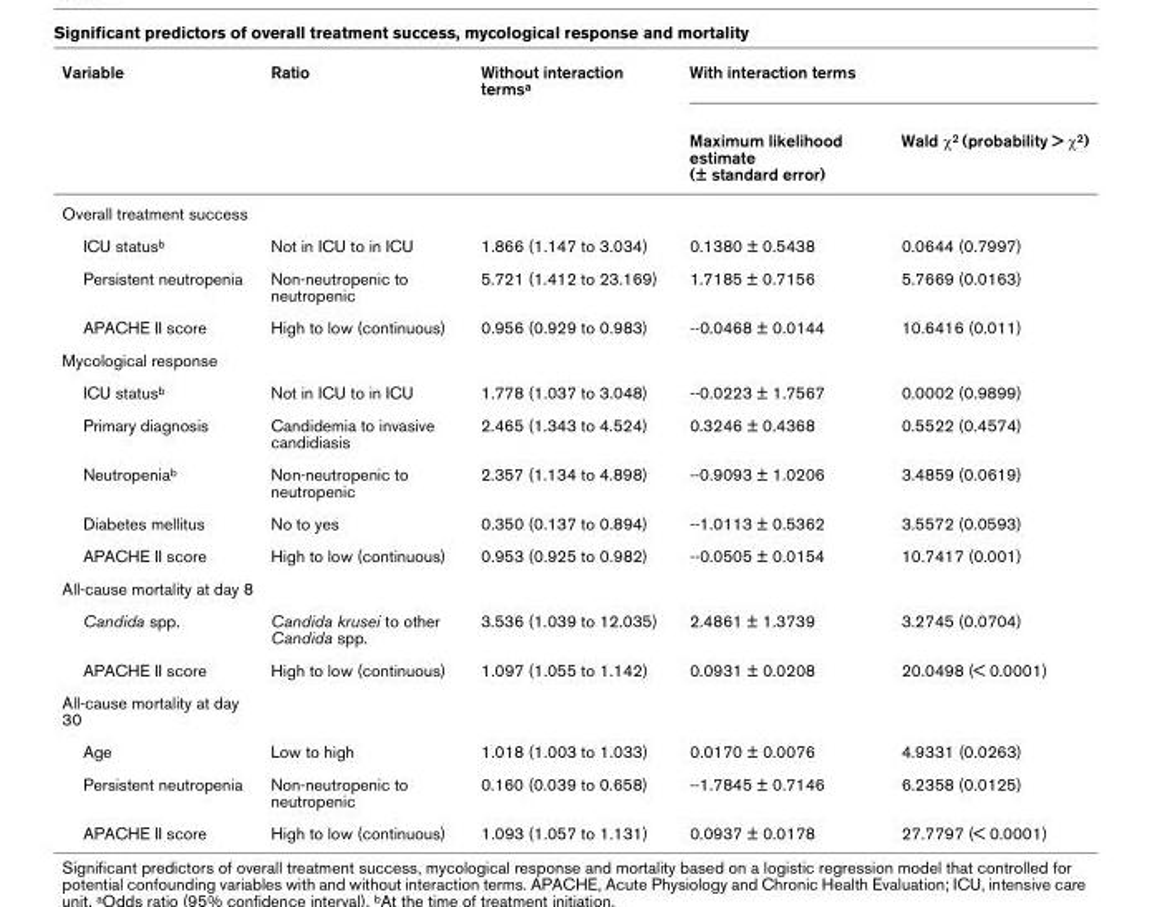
<table><thead><tr><td rowspan="2">Variable</td><td rowspan="2">Ratio</td><td rowspan="2">Without interaction terms<sup>a</sup></td><td colspan="2">With interaction terms</td></tr><tr><td>Maximum likelihood estimate (± standard error)</td><td>Wald χ<sup>2</sup> (probability &gt; χ<sup>2</sup>)</td></tr></thead><tbody><tr><td colspan="5">Overall treatment success</td></tr><tr><td>ICU status<sup>b</sup></td><td>Not in ICU to in ICU</td><td>1.866 (1.147 to 3.034)</td><td>0.1380 ± 0.5438</td><td>0.0644 (0.7997)</td></tr><tr><td>Persistent neutropenia</td><td>Non-neutropenic to neutropenic</td><td>5.721 (1.412 to 23.169)</td><td>1.7185 ± 0.7156</td><td>5.7669 (0.0163)</td></tr><tr><td>APACHE II score</td><td>High to low (continuous)</td><td>0.956 (0.929 to 0.983)</td><td>--0.0468 ± 0.0144</td><td>10.6416 (0.011)</td></tr><tr><td colspan="5">Mycological response</td></tr><tr><td>ICU status<sup>b</sup></td><td>Not in ICU to in ICU</td><td>1.778 (1.037 to 3.048)</td><td>--0.0223 ± 1.7567</td><td>0.0002 (0.9899)</td></tr><tr><td>Primary diagnosis</td><td>Candidemia to invasive candidiasis</td><td>2.465 (1.343 to 4.524)</td><td>0.3246 ± 0.4368</td><td>0.5522 (0.4574)</td></tr><tr><td>Neutropenia<sup>b</sup></td><td>Non-neutropenic to neutropenic</td><td>2.357 (1.134 to 4.898)</td><td>--0.9093 ± 1.0206</td><td>3.4859 (0.0619)</td></tr><tr><td>Diabetes mellitus</td><td>No to yes</td><td>0.350 (0.137 to 0.894)</td><td>--1.0113 ± 0.5362</td><td>3.5572 (0.0593)</td></tr><tr><td>APACHE II score</td><td>High to low (continuous)</td><td>0.953 (0.925 to 0.982)</td><td>--0.0505 ± 0.0154</td><td>10.7417 (0.001)</td></tr><tr><td colspan="5">All-cause mortality at day 8</td></tr><tr><td>Candida spp.</td><td>Candida krusei to other Candida spp.</td><td>3.536 (1.039 to 12.035)</td><td>2.4861 ± 1.3739</td><td>3.2745 (0.0704)</td></tr><tr><td>APACHE II score</td><td>High to low (continuous)</td><td>1.097 (1.055 to 1.142)</td><td>0.0931 ± 0.0208</td><td>20.0498 (&lt; 0.0001)</td></tr><tr><td colspan="5">All-cause mortality at day 30</td></tr><tr><td>Age</td><td>Low to high</td><td>1.018 (1.003 to 1.033)</td><td>0.0170 ± 0.0076</td><td>4.9331 (0.0263)</td></tr><tr><td>Persistent neutropenia</td><td>Non-neutropenic to neutropenic</td><td>0.160 (0.039 to 0.658)</td><td>--1.7845 ± 0.7146</td><td>6.2358 (0.0125)</td></tr><tr><td>APACHE II score</td><td>High to low (continuous)</td><td>1.093 (1.057 to 1.131)</td><td>0.0937 ± 0.0178</td><td>27.7797 (&lt; 0.0001)</td></tr></tbody></table>